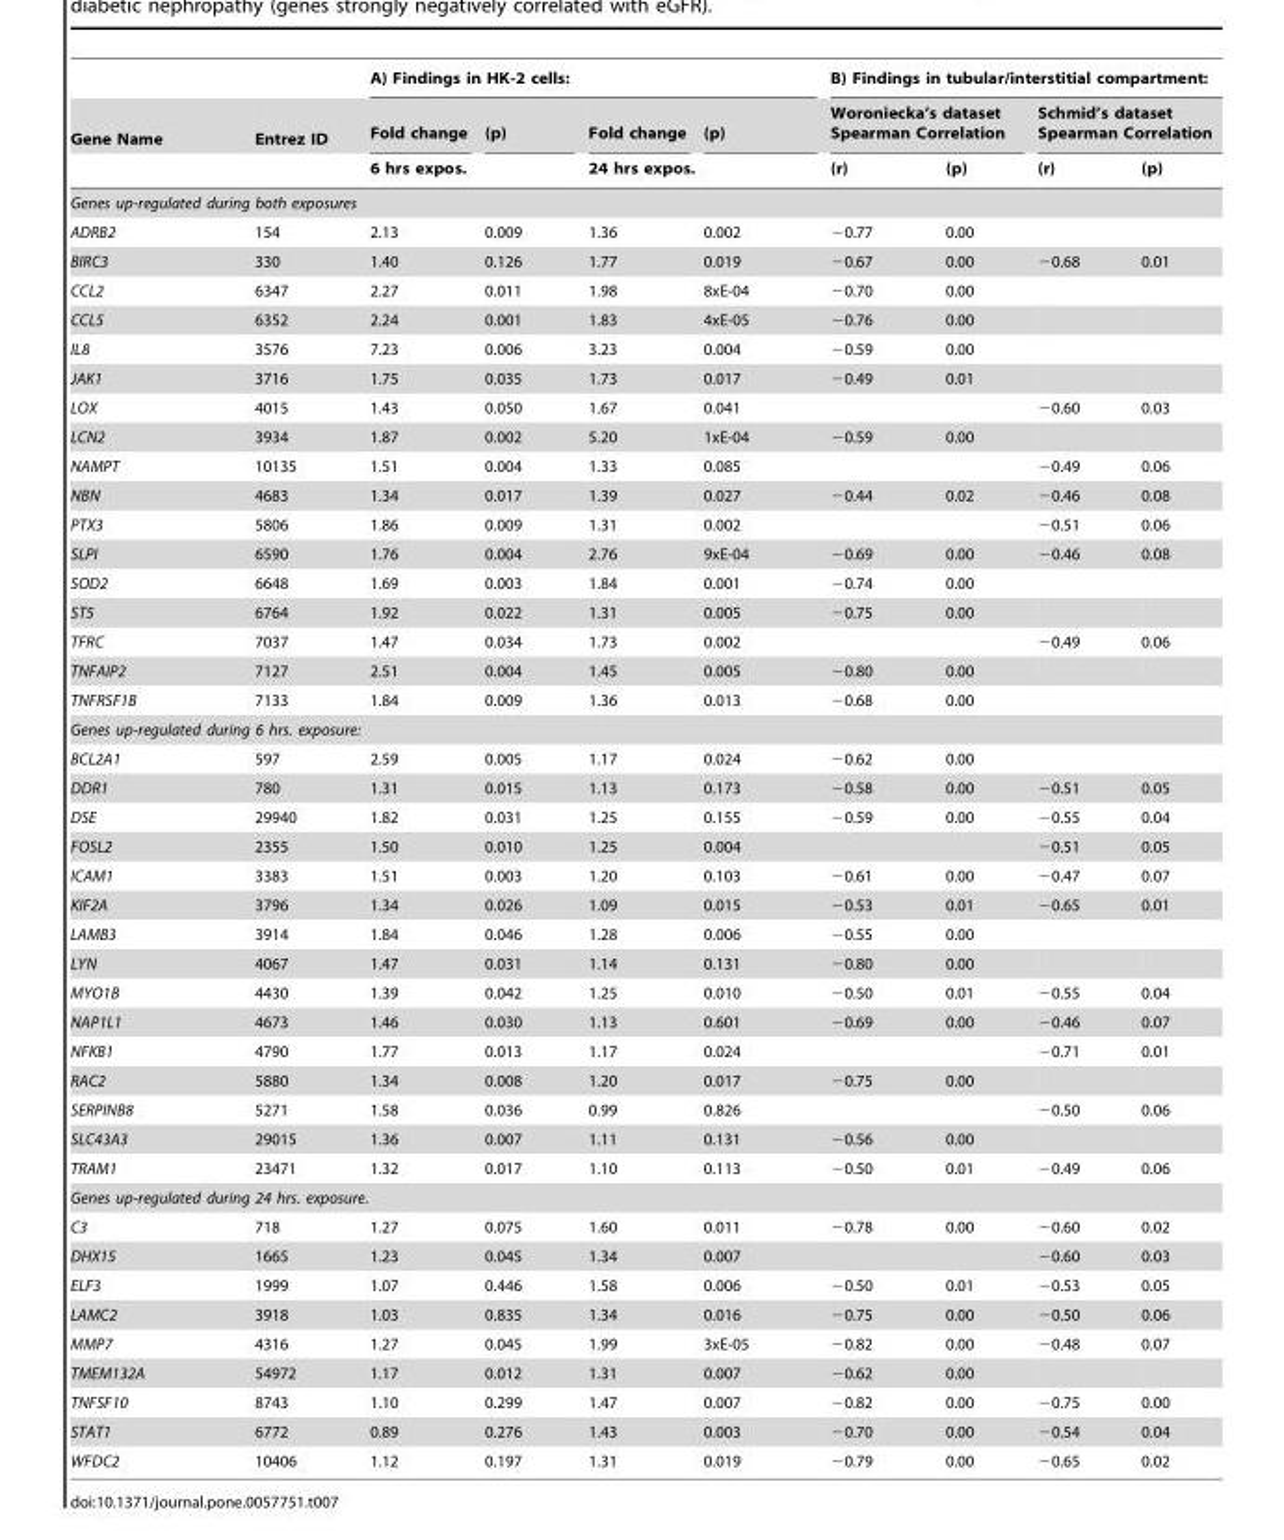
<table><thead><tr><td rowspan="3">Gene Name</td><td rowspan="3">Entrez ID</td><td colspan="4">A) Findings in HK-2 cells:</td><td colspan="4">B) Findings in tubular/interstitial compartment:</td></tr><tr><td>Fold change</td><td>(p)</td><td>Fold change</td><td>(p)</td><td colspan="2">Woroniecka’s dataset Spearman Correlation</td><td colspan="2">Schmid’s dataset Spearman Correlation</td></tr><tr><td colspan="2">6 hrs expos.</td><td colspan="2">24 hrs expos.</td><td>(r)</td><td>(p)</td><td>(r)</td><td>(p)</td></tr></thead><tbody><tr><td colspan="10">Genes up-regulated during both exposures</td></tr><tr><td>ADRB2</td><td>154</td><td>2.13</td><td>0.009</td><td>1.36</td><td>0.002</td><td>−0.77</td><td>0.00</td><td></td><td></td></tr><tr><td>BIRC3</td><td>330</td><td>1.40</td><td>0.126</td><td>1.77</td><td>0.019</td><td>−0.67</td><td>0.00</td><td>−0.68</td><td>0.01</td></tr><tr><td>CCL2</td><td>6347</td><td>2.27</td><td>0.011</td><td>1.98</td><td>8xE-04</td><td>−0.70</td><td>0.00</td><td></td><td></td></tr><tr><td>CCL5</td><td>6352</td><td>2.24</td><td>0.001</td><td>1.83</td><td>4xE-05</td><td>−0.76</td><td>0.00</td><td></td><td></td></tr><tr><td>IL8</td><td>3576</td><td>7.23</td><td>0.006</td><td>3.23</td><td>0.004</td><td>−0.59</td><td>0.00</td><td></td><td></td></tr><tr><td>JAK1</td><td>3716</td><td>1.75</td><td>0.035</td><td>1.73</td><td>0.017</td><td>−0.49</td><td>0.01</td><td></td><td></td></tr><tr><td>LOX</td><td>4015</td><td>1.43</td><td>0.050</td><td>1.67</td><td>0.041</td><td></td><td></td><td>−0.60</td><td>0.03</td></tr><tr><td>LCN2</td><td>3934</td><td>1.87</td><td>0.002</td><td>5.20</td><td>1xE-04</td><td>−0.59</td><td>0.00</td><td></td><td></td></tr><tr><td>NAMPT</td><td>10135</td><td>1.51</td><td>0.004</td><td>1.33</td><td>0.085</td><td></td><td></td><td>−0.49</td><td>0.06</td></tr><tr><td>NBN</td><td>4683</td><td>1.34</td><td>0.017</td><td>1.39</td><td>0.027</td><td>−0.44</td><td>0.02</td><td>−0.46</td><td>0.08</td></tr><tr><td>PTX3</td><td>5806</td><td>1.86</td><td>0.009</td><td>1.31</td><td>0.002</td><td></td><td></td><td>−0.51</td><td>0.06</td></tr><tr><td>SLPI</td><td>6590</td><td>1.76</td><td>0.004</td><td>2.76</td><td>9xE-04</td><td>−0.69</td><td>0.00</td><td>−0.46</td><td>0.08</td></tr><tr><td>SOD2</td><td>6648</td><td>1.69</td><td>0.003</td><td>1.84</td><td>0.001</td><td>−0.74</td><td>0.00</td><td></td><td></td></tr><tr><td>ST5</td><td>6764</td><td>1.92</td><td>0.022</td><td>1.31</td><td>0.005</td><td>−0.75</td><td>0.00</td><td></td><td></td></tr><tr><td>TFRC</td><td>7037</td><td>1.47</td><td>0.034</td><td>1.73</td><td>0.002</td><td></td><td></td><td>−0.49</td><td>0.06</td></tr><tr><td>TNFAIP2</td><td>7127</td><td>2.51</td><td>0.004</td><td>1.45</td><td>0.005</td><td>−0.80</td><td>0.00</td><td></td><td></td></tr><tr><td>TNFRSF1B</td><td>7133</td><td>1.84</td><td>0.009</td><td>1.36</td><td>0.013</td><td>−0.68</td><td>0.00</td><td></td><td></td></tr><tr><td colspan="10">Genes up-regulated during 6 hrs. exposure:</td></tr><tr><td>BCL2A1</td><td>597</td><td>2.59</td><td>0.005</td><td>1.17</td><td>0.024</td><td>−0.62</td><td>0.00</td><td></td><td></td></tr><tr><td>DDR1</td><td>780</td><td>1.31</td><td>0.015</td><td>1.13</td><td>0.173</td><td>−0.58</td><td>0.00</td><td>−0.51</td><td>0.05</td></tr><tr><td>DSE</td><td>29940</td><td>1.82</td><td>0.031</td><td>1.25</td><td>0.155</td><td>−0.59</td><td>0.00</td><td>−0.55</td><td>0.04</td></tr><tr><td>FOSL2</td><td>2355</td><td>1.50</td><td>0.010</td><td>1.25</td><td>0.004</td><td></td><td></td><td>−0.51</td><td>0.05</td></tr><tr><td>ICAM1</td><td>3383</td><td>1.51</td><td>0.003</td><td>1.20</td><td>0.103</td><td>−0.61</td><td>0.00</td><td>−0.47</td><td>0.07</td></tr><tr><td>KIF2A</td><td>3796</td><td>1.34</td><td>0.026</td><td>1.09</td><td>0.015</td><td>−0.53</td><td>0.01</td><td>−0.65</td><td>0.01</td></tr><tr><td>LAMB3</td><td>3914</td><td>1.84</td><td>0.046</td><td>1.28</td><td>0.006</td><td>−0.55</td><td>0.00</td><td></td><td></td></tr><tr><td>LYN</td><td>4067</td><td>1.47</td><td>0.031</td><td>1.14</td><td>0.131</td><td>−0.80</td><td>0.00</td><td></td><td></td></tr><tr><td>MYO1B</td><td>4430</td><td>1.39</td><td>0.042</td><td>1.25</td><td>0.010</td><td>−0.50</td><td>0.01</td><td>−0.55</td><td>0.04</td></tr><tr><td>NAP1L1</td><td>4673</td><td>1.46</td><td>0.030</td><td>1.13</td><td>0.601</td><td>−0.69</td><td>0.00</td><td>−0.46</td><td>0.07</td></tr><tr><td>NFKB1</td><td>4790</td><td>1.77</td><td>0.013</td><td>1.17</td><td>0.024</td><td></td><td></td><td>−0.71</td><td>0.01</td></tr><tr><td>RAC2</td><td>5880</td><td>1.34</td><td>0.008</td><td>1.20</td><td>0.017</td><td>−0.75</td><td>0.00</td><td></td><td></td></tr><tr><td>SERPINB8</td><td>5271</td><td>1.58</td><td>0.036</td><td>0.99</td><td>0.826</td><td></td><td></td><td>−0.50</td><td>0.06</td></tr><tr><td>SLC43A3</td><td>29015</td><td>1.36</td><td>0.007</td><td>1.11</td><td>0.131</td><td>−0.56</td><td>0.00</td><td></td><td></td></tr><tr><td>TRAM1</td><td>23471</td><td>1.32</td><td>0.017</td><td>1.10</td><td>0.113</td><td>−0.50</td><td>0.01</td><td>−0.49</td><td>0.06</td></tr><tr><td colspan="10">Genes up-regulated during 24 hrs. exposure.</td></tr><tr><td>C3</td><td>718</td><td>1.27</td><td>0.075</td><td>1.60</td><td>0.011</td><td>−0.78</td><td>0.00</td><td>−0.60</td><td>0.02</td></tr><tr><td>DHX15</td><td>1665</td><td>1.23</td><td>0.045</td><td>1.34</td><td>0.007</td><td></td><td></td><td>−0.60</td><td>0.03</td></tr><tr><td>ELF3</td><td>1999</td><td>1.07</td><td>0.446</td><td>1.58</td><td>0.006</td><td>−0.50</td><td>0.01</td><td>−0.53</td><td>0.05</td></tr><tr><td>LAMC2</td><td>3918</td><td>1.03</td><td>0.835</td><td>1.34</td><td>0.016</td><td>−0.75</td><td>0.00</td><td>−0.50</td><td>0.06</td></tr><tr><td>MMP7</td><td>4316</td><td>1.27</td><td>0.045</td><td>1.99</td><td>3xE-05</td><td>−0.82</td><td>0.00</td><td>−0.48</td><td>0.07</td></tr><tr><td>TMEM132A</td><td>54972</td><td>1.17</td><td>0.012</td><td>1.31</td><td>0.007</td><td>−0.62</td><td>0.00</td><td></td><td></td></tr><tr><td>TNFSF10</td><td>8743</td><td>1.10</td><td>0.299</td><td>1.47</td><td>0.007</td><td>−0.82</td><td>0.00</td><td>−0.75</td><td>0.00</td></tr><tr><td>STAT1</td><td>6772</td><td>0.89</td><td>0.276</td><td>1.43</td><td>0.003</td><td>−0.70</td><td>0.00</td><td>−0.54</td><td>0.04</td></tr><tr><td>WFDC2</td><td>10406</td><td>1.12</td><td>0.197</td><td>1.31</td><td>0.019</td><td>−0.79</td><td>0.00</td><td>−0.65</td><td>0.02</td></tr></tbody></table>